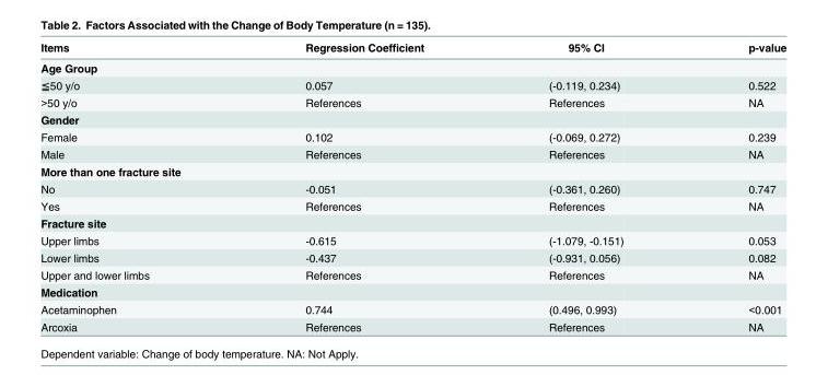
<table><thead><tr><td>Items</td><td>Regression Coefficient</td><td>95% CI</td><td>p-value</td></tr></thead><tbody><tr><td colspan="4">Age Group</td></tr><tr><td>≦50 y/o</td><td>0.057</td><td>(-0.119, 0.234)</td><td>0.522</td></tr><tr><td>&gt;50 y/o</td><td>References</td><td>References</td><td>NA</td></tr><tr><td colspan="4">Gender</td></tr><tr><td>Female</td><td>0.102</td><td>(-0.069, 0.272)</td><td>0.239</td></tr><tr><td>Male</td><td>References</td><td>References</td><td>NA</td></tr><tr><td colspan="4">More than one fracture site</td></tr><tr><td>No</td><td>-0.051</td><td>(-0.361, 0.260)</td><td>0.747</td></tr><tr><td>Yes</td><td>References</td><td>References</td><td>NA</td></tr><tr><td colspan="4">Fracture site</td></tr><tr><td>Upper limbs</td><td>-0.615</td><td>(-1.079, -0.151)</td><td>0.053</td></tr><tr><td>Lower limbs</td><td>-0.437</td><td>(-0.931, 0.056)</td><td>0.082</td></tr><tr><td>Upper and lower limbs</td><td>References</td><td>References</td><td>NA</td></tr><tr><td colspan="4">Medication</td></tr><tr><td>Acetaminophen</td><td>0.744</td><td>(0.496, 0.993)</td><td>&lt;0.001</td></tr><tr><td>Arcoxia</td><td>References</td><td>References</td><td>NA</td></tr></tbody></table>